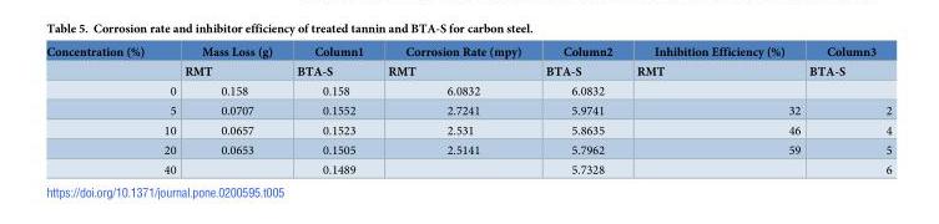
<table><thead><tr><td rowspan="2">Concentration (%)</td><td rowspan="2">Mass Loss (g) RMT</td><td rowspan="2">Column1 BTA-S</td><td rowspan="2">Corrosion Rate (mpy) RMT</td><td rowspan="2">Column2 BTA-S</td><td rowspan="2">Inhibition Efficiency (%) RMT</td><td rowspan="2">Column3 BTA-S</td></tr><tr></tr></thead><tbody><tr><td>0</td><td>0.158</td><td>0.158</td><td>6.0832</td><td>6.0832</td><td></td><td></td></tr><tr><td>5</td><td>0.0707</td><td>0.1552</td><td>2.7241</td><td>5.9741</td><td>32</td><td>2</td></tr><tr><td>10</td><td>0.0657</td><td>0.1523</td><td>2.531</td><td>5.8635</td><td>46</td><td>4</td></tr><tr><td>20</td><td>0.0653</td><td>0.1505</td><td>2.5141</td><td>5.7962</td><td>59</td><td>5</td></tr><tr><td>40</td><td></td><td>0.1489</td><td></td><td>5.7328</td><td></td><td>6</td></tr></tbody></table>